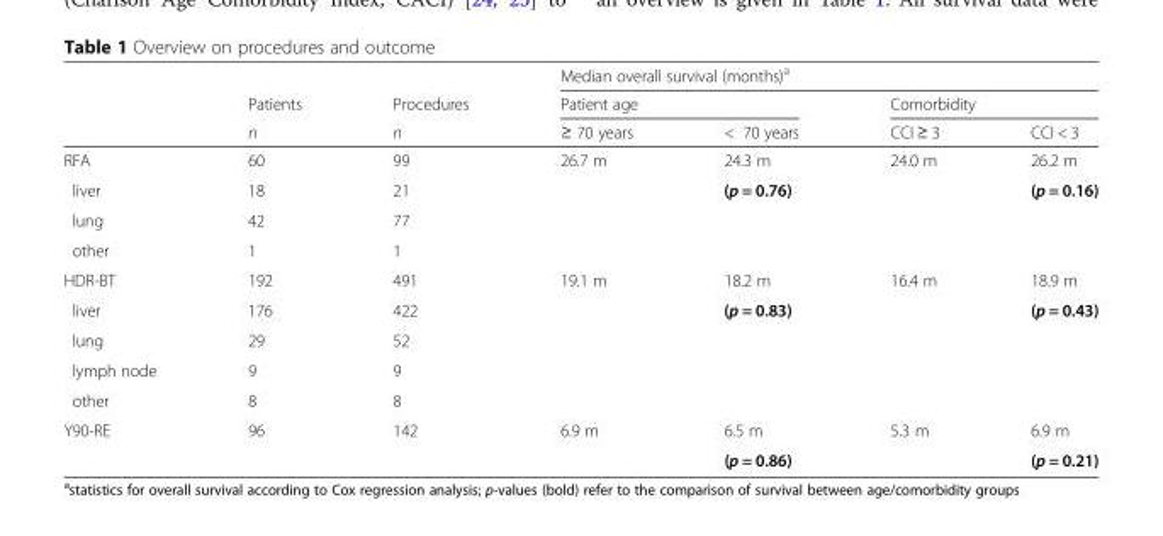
<table><thead><tr><td rowspan="3"></td><td rowspan="3">Patients n</td><td rowspan="3">Procedures n</td><td colspan="4">Median overall survival (months)<sup>a</sup></td></tr><tr><td colspan="2">Patient age</td><td colspan="2">Comorbidity</td></tr><tr><td>≥ 70 years</td><td>&lt; 70 years</td><td>CCI ≥ 3</td><td>CCI &lt; 3</td></tr></thead><tbody><tr><td>RFA</td><td>60</td><td>99</td><td>26.7 m</td><td>24.3 m</td><td>24.0 m</td><td>26.2 m</td></tr><tr><td>liver</td><td>18</td><td>21</td><td></td><td>(p = 0.76)</td><td></td><td>(p = 0.16)</td></tr><tr><td>lung</td><td>42</td><td>77</td><td></td><td></td><td></td><td></td></tr><tr><td>other</td><td>1</td><td>1</td><td></td><td></td><td></td><td></td></tr><tr><td>HDR-BT</td><td>192</td><td>491</td><td>19.1 m</td><td>18.2 m</td><td>16.4 m</td><td>18.9 m</td></tr><tr><td>liver</td><td>176</td><td>422</td><td></td><td>(p = 0.83)</td><td></td><td>(p = 0.43)</td></tr><tr><td>lung</td><td>29</td><td>52</td><td></td><td></td><td></td><td></td></tr><tr><td>lymph node</td><td>9</td><td>9</td><td></td><td></td><td></td><td></td></tr><tr><td>other</td><td>8</td><td>8</td><td></td><td></td><td></td><td></td></tr><tr><td rowspan="2">Y90-RE</td><td>96</td><td>142</td><td>6.9 m</td><td>6.5 m</td><td>5.3 m</td><td>6.9 m</td></tr><tr><td></td><td></td><td></td><td>(p = 0.86)</td><td></td><td>(p = 0.21)</td></tr></tbody></table>